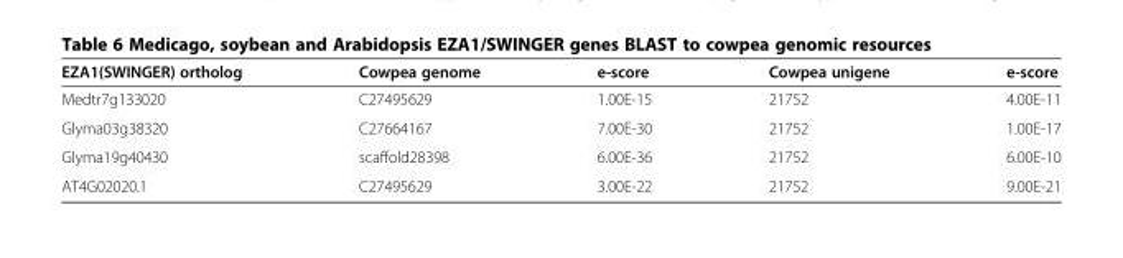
<table><thead><tr><td>EZA1(SWINGER) ortholog</td><td>Cowpea genome</td><td>e-score</td><td>Cowpea unigene</td><td>e-score</td></tr></thead><tbody><tr><td>Medtr7g133020</td><td>C27495629</td><td>1.00E-15</td><td>21752</td><td>4.00E-11</td></tr><tr><td>Glyma03g38320</td><td>C27664167</td><td>7.00E-30</td><td>21752</td><td>1.00E-17</td></tr><tr><td>Glyma19g40430</td><td>scaffold28398</td><td>6.00E-36</td><td>21752</td><td>6.00E-10</td></tr><tr><td>AT4G02020.1</td><td>C27495629</td><td>3.00E-22</td><td>21752</td><td>9.00E-21</td></tr></tbody></table>